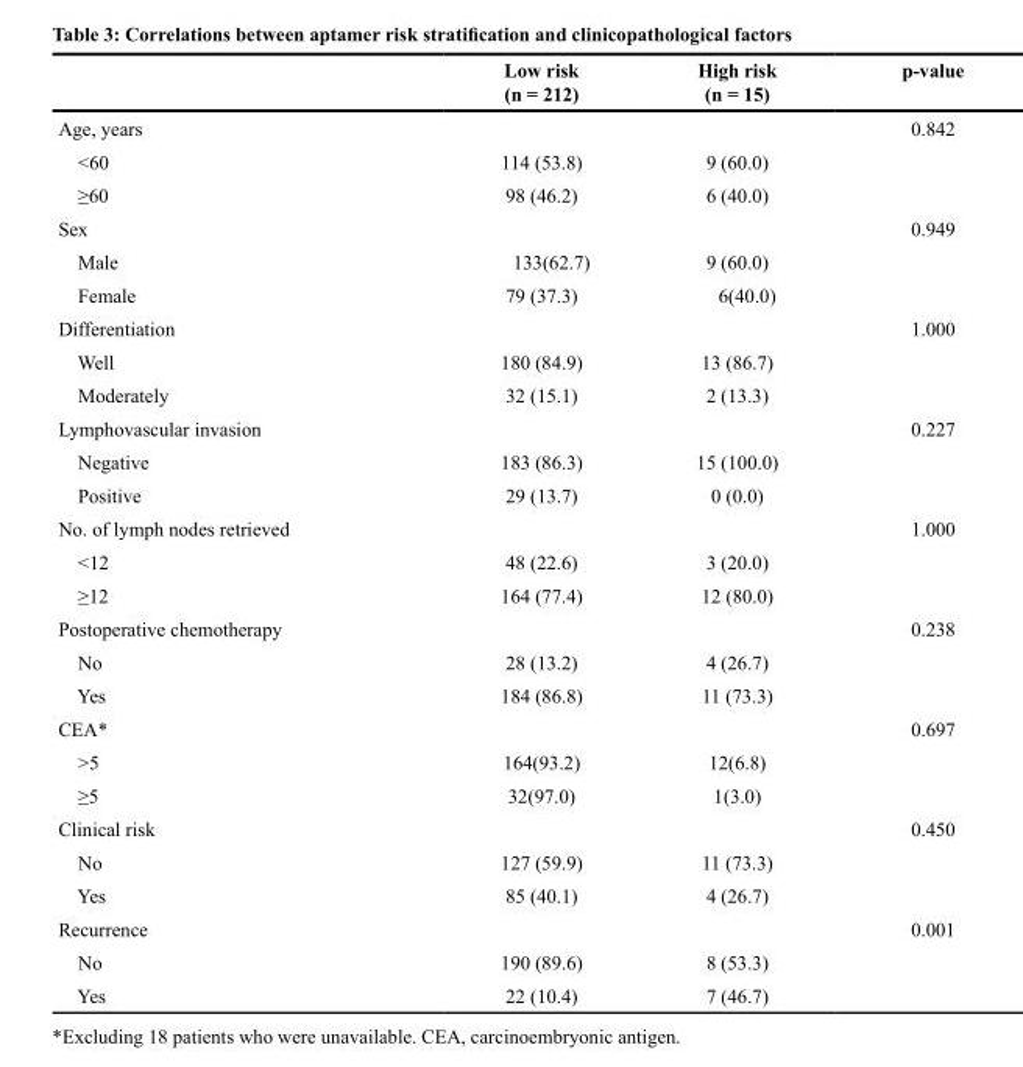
<table><thead><tr><td></td><td>Low risk (n = 212)</td><td>High risk (n = 15)</td><td>p-value</td></tr></thead><tbody><tr><td>Age, years</td><td></td><td></td><td>0.842</td></tr><tr><td>&lt;60</td><td>114 (53.8)</td><td>9 (60.0)</td><td></td></tr><tr><td>≥60</td><td>98 (46.2)</td><td>6 (40.0)</td><td></td></tr><tr><td>Sex</td><td></td><td></td><td>0.949</td></tr><tr><td>Male</td><td>133(62.7)</td><td>9 (60.0)</td><td></td></tr><tr><td>Female</td><td>79 (37.3)</td><td>6(40.0)</td><td></td></tr><tr><td>Differentiation</td><td></td><td></td><td>1.000</td></tr><tr><td>Well</td><td>180 (84.9)</td><td>13 (86.7)</td><td></td></tr><tr><td>Moderately</td><td>32 (15.1)</td><td>2 (13.3)</td><td></td></tr><tr><td>Lymphovascular invasion</td><td></td><td></td><td>0.227</td></tr><tr><td>Negative</td><td>183 (86.3)</td><td>15 (100.0)</td><td></td></tr><tr><td>Positive</td><td>29 (13.7)</td><td>0 (0.0)</td><td></td></tr><tr><td>No. of lymph nodes retrieved</td><td></td><td></td><td>1.000</td></tr><tr><td>&lt;12</td><td>48 (22.6)</td><td>3 (20.0)</td><td></td></tr><tr><td>≥12</td><td>164 (77.4)</td><td>12 (80.0)</td><td></td></tr><tr><td>Postoperative chemotherapy</td><td></td><td></td><td>0.238</td></tr><tr><td>No</td><td>28 (13.2)</td><td>4 (26.7)</td><td></td></tr><tr><td>Yes</td><td>184 (86.8)</td><td>11 (73.3)</td><td></td></tr><tr><td>CEA*</td><td></td><td></td><td>0.697</td></tr><tr><td>&gt;5</td><td>164(93.2)</td><td>12(6.8)</td><td></td></tr><tr><td>≥5</td><td>32(97.0)</td><td>1(3.0)</td><td></td></tr><tr><td>Clinical risk</td><td></td><td></td><td>0.450</td></tr><tr><td>No</td><td>127 (59.9)</td><td>11 (73.3)</td><td></td></tr><tr><td>Yes</td><td>85 (40.1)</td><td>4 (26.7)</td><td></td></tr><tr><td>Recurrence</td><td></td><td></td><td>0.001</td></tr><tr><td>No</td><td>190 (89.6)</td><td>8 (53.3)</td><td></td></tr><tr><td>Yes</td><td>22 (10.4)</td><td>7 (46.7)</td><td></td></tr></tbody></table>